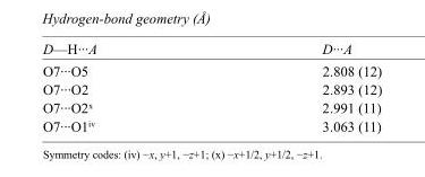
<table><tbody><tr><td>D—H···A</td><td>D···A</td></tr><tr><td>O7···O5</td><td>2.808 (12)</td></tr><tr><td>O7···O2</td><td>2.893 (12)</td></tr><tr><td>O7···O2<sup>x</sup></td><td>2.991 (11)</td></tr><tr><td>O7···O1<sup>iv</sup></td><td>3.063 (11)</td></tr></tbody></table>